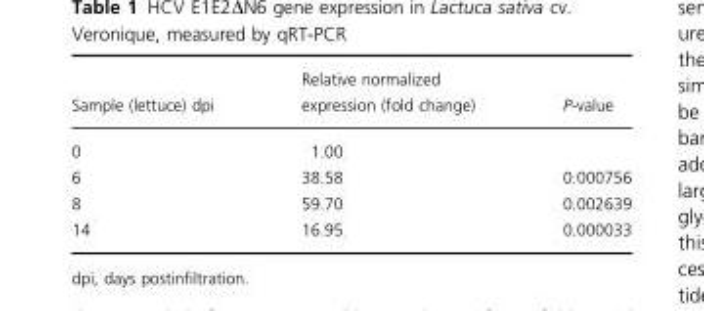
<table><thead><tr><td>Sample (lettuce) dpi</td><td>Relative normalized expression (fold change)</td><td>P-value</td></tr></thead><tbody><tr><td>0</td><td>1.00</td><td></td></tr><tr><td>6</td><td>38.58</td><td>0.000756</td></tr><tr><td>8</td><td>59.70</td><td>0.002639</td></tr><tr><td>14</td><td>16.95</td><td>0.000033</td></tr></tbody></table>